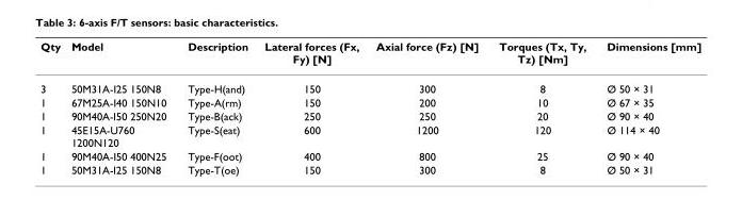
<table><thead><tr><td>Qty</td><td>Model</td><td>Description</td><td>Lateral forces (Fx, Fy) [N]</td><td>Axial force (Fz) [N]</td><td>Torques (Tx, Ty, Tz) [Nm]</td><td>Dimensions [mm]</td></tr></thead><tbody><tr><td>3</td><td>50M31A-I25 150N8</td><td>Type-H(and)</td><td>150</td><td>300</td><td>8</td><td>Ø 50 × 31</td></tr><tr><td>1</td><td>67M25A-I40 150N10</td><td>Type-A(rm)</td><td>150</td><td>200</td><td>10</td><td>Ø 67 × 35</td></tr><tr><td>1</td><td>90M40A-I50 250N20</td><td>Type-B(ack)</td><td>250</td><td>250</td><td>20</td><td>Ø 90 × 40</td></tr><tr><td>1</td><td>45E15A-U760 1200N120</td><td>Type-S(eat)</td><td>600</td><td>1200</td><td>120</td><td>Ø 114 × 40</td></tr><tr><td>1</td><td>90M40A-I50 400N25</td><td>Type-F(oot)</td><td>400</td><td>800</td><td>25</td><td>Ø 90 × 40</td></tr><tr><td>1</td><td>50M31A-I25 150N8</td><td>Type-T(oe)</td><td>150</td><td>300</td><td>8</td><td>Ø 50 × 31</td></tr></tbody></table>